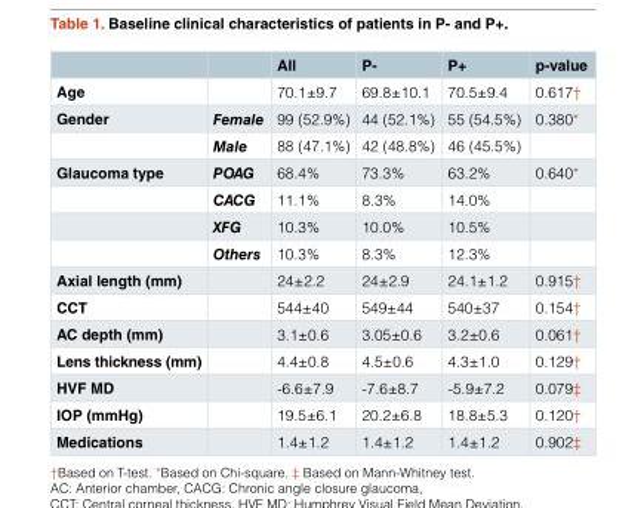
<table><thead><tr><td></td><td></td><td>All</td><td>P-</td><td>P+</td><td>p-value</td></tr></thead><tbody><tr><td>Age</td><td></td><td>70.1±9.7</td><td>69.8±10.1</td><td>70.5±9.4</td><td>0.617†</td></tr><tr><td rowspan="2">Gender</td><td>Female</td><td>99 (52.9%)</td><td>44 (52.1%)</td><td>55 (54.5%)</td><td>0.380*</td></tr><tr><td>Male</td><td>88 (47.1%)</td><td>42 (48.8%)</td><td>46 (45.5%)</td><td></td></tr><tr><td rowspan="4">Glaucoma type</td><td>POAG</td><td>68.4%</td><td>73.3%</td><td>63.2%</td><td>0.640*</td></tr><tr><td>CACG</td><td>11.1%</td><td>8.3%</td><td>14.0%</td><td></td></tr><tr><td>XFG</td><td>10.3%</td><td>10.0%</td><td>10.5%</td><td></td></tr><tr><td>Others</td><td>10.3%</td><td>8.3%</td><td>12.3%</td><td></td></tr><tr><td>Axial length (mm)</td><td></td><td>24±2.2</td><td>24±2.9</td><td>24.1±1.2</td><td>0.915†</td></tr><tr><td>CCT</td><td></td><td>544±40</td><td>549±44</td><td>540±37</td><td>0.154†</td></tr><tr><td>AC depth (mm)</td><td></td><td>3.1±0.6</td><td>3.05±0.6</td><td>3.2±0.6</td><td>0.061†</td></tr><tr><td>Lens thickness (mm)</td><td></td><td>4.4±0.8</td><td>4.5±0.6</td><td>4.3±1.0</td><td>0.129†</td></tr><tr><td>HVF MD</td><td></td><td>-6.6±7.9</td><td>-7.6±8.7</td><td>-5.9±7.2</td><td>0.079‡</td></tr><tr><td>IOP (mmHg)</td><td></td><td>19.5±6.1</td><td>20.2±6.8</td><td>18.8±5.3</td><td>0.120†</td></tr><tr><td>Medications</td><td></td><td>1.4±1.2</td><td>1.4±1.2</td><td>1.4±1.2</td><td>0.902‡</td></tr></tbody></table>